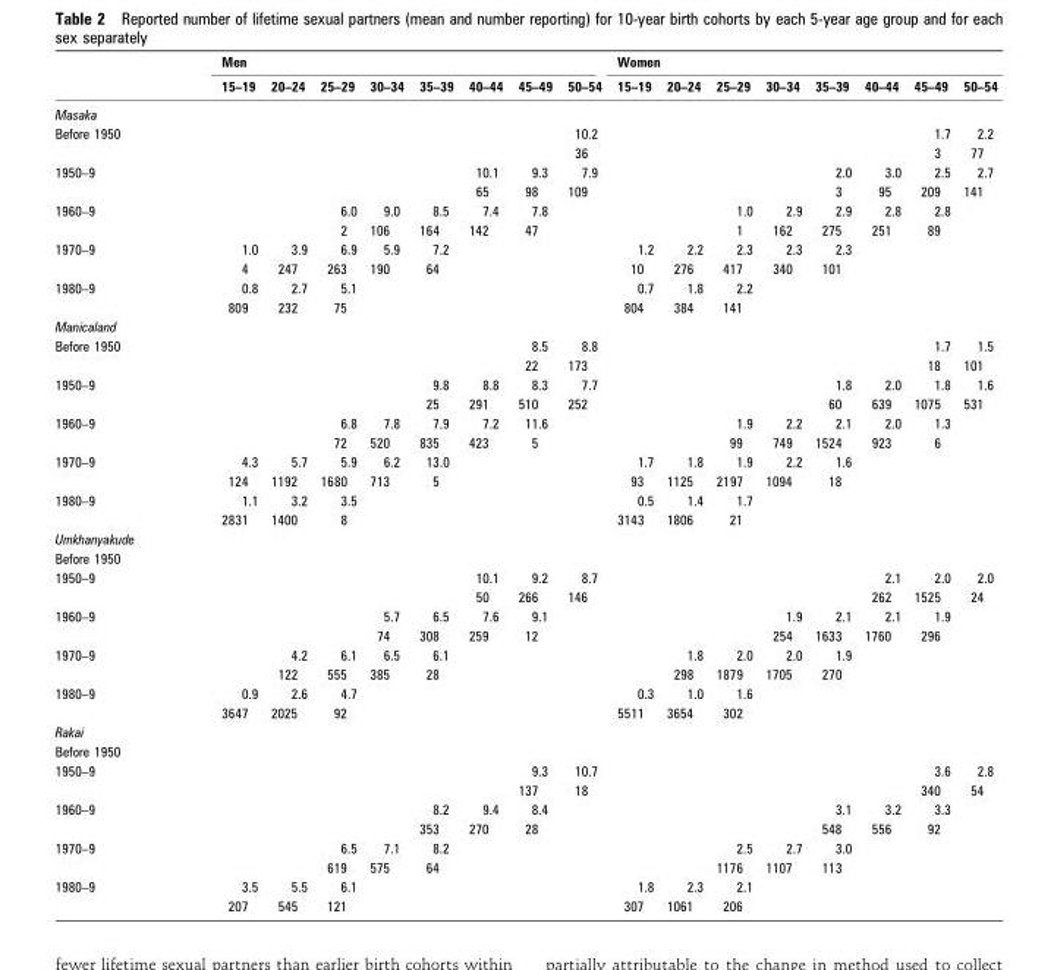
<table><thead><tr><td rowspan="2"></td><td colspan="8">Men</td><td colspan="8">Women</td></tr><tr><td>15–19</td><td>20–24</td><td>25–29</td><td>30–34</td><td>35–39</td><td>40–44</td><td>45–49</td><td>50–54</td><td>15–19</td><td>20–24</td><td>25–29</td><td>30–34</td><td>35–39</td><td>40–44</td><td>45–49</td><td>50–54</td></tr></thead><tbody><tr><td colspan="17">Masaka</td></tr><tr><td rowspan="2">Before 1950</td><td></td><td></td><td></td><td></td><td></td><td></td><td></td><td>10.2</td><td></td><td></td><td></td><td></td><td></td><td></td><td>1.7</td><td>2.2</td></tr><tr><td></td><td></td><td></td><td></td><td></td><td></td><td></td><td>36</td><td></td><td></td><td></td><td></td><td></td><td></td><td>3</td><td>77</td></tr><tr><td rowspan="2">1950–9</td><td></td><td></td><td></td><td></td><td></td><td>10.1</td><td>9.3</td><td>7.9</td><td></td><td></td><td></td><td></td><td>2.0</td><td>3.0</td><td>2.5</td><td>2.7</td></tr><tr><td></td><td></td><td></td><td></td><td></td><td>65</td><td>98</td><td>109</td><td></td><td></td><td></td><td></td><td>3</td><td>95</td><td>209</td><td>141</td></tr><tr><td rowspan="2">1960–9</td><td></td><td></td><td>6.0</td><td>9.0</td><td>8.5</td><td>7.4</td><td>7.8</td><td></td><td></td><td></td><td>1.0</td><td>2.9</td><td>2.9</td><td>2.8</td><td>2.8</td><td></td></tr><tr><td></td><td></td><td>2</td><td>106</td><td>164</td><td>142</td><td>47</td><td></td><td></td><td></td><td>1</td><td>162</td><td>275</td><td>251</td><td>89</td><td></td></tr><tr><td rowspan="2">1970–9</td><td>1.0</td><td>3.9</td><td>6.9</td><td>5.9</td><td>7.2</td><td></td><td></td><td></td><td>1.2</td><td>2.2</td><td>2.3</td><td>2.3</td><td>2.3</td><td></td><td></td><td></td></tr><tr><td>4</td><td>247</td><td>263</td><td>190</td><td>64</td><td></td><td></td><td></td><td>10</td><td>276</td><td>417</td><td>340</td><td>101</td><td></td><td></td><td></td></tr><tr><td rowspan="2">1980–9</td><td>0.8</td><td>2.7</td><td>5.1</td><td></td><td></td><td></td><td></td><td></td><td>0.7</td><td>1.8</td><td>2.2</td><td></td><td></td><td></td><td></td><td></td></tr><tr><td>809</td><td>232</td><td>75</td><td></td><td></td><td></td><td></td><td></td><td>804</td><td>384</td><td>141</td><td></td><td></td><td></td><td></td><td></td></tr><tr><td colspan="17">Manicaland</td></tr><tr><td rowspan="2">Before 1950</td><td></td><td></td><td></td><td></td><td></td><td></td><td>8.5</td><td>8.8</td><td></td><td></td><td></td><td></td><td></td><td></td><td>1.7</td><td>1.5</td></tr><tr><td></td><td></td><td></td><td></td><td></td><td></td><td>22</td><td>173</td><td></td><td></td><td></td><td></td><td></td><td></td><td>18</td><td>101</td></tr><tr><td rowspan="2">1950–9</td><td></td><td></td><td></td><td></td><td>9.8</td><td>8.8</td><td>8.3</td><td>7.7</td><td></td><td></td><td></td><td></td><td>1.8</td><td>2.0</td><td>1.8</td><td>1.6</td></tr><tr><td></td><td></td><td></td><td></td><td>25</td><td>291</td><td>510</td><td>252</td><td></td><td></td><td></td><td></td><td>60</td><td>639</td><td>1075</td><td>531</td></tr><tr><td rowspan="2">1960–9</td><td></td><td></td><td>6.8</td><td>7.8</td><td>7.9</td><td>7.2</td><td>11.6</td><td></td><td></td><td></td><td>1.9</td><td>2.2</td><td>2.1</td><td>2.0</td><td>1.3</td><td></td></tr><tr><td></td><td></td><td>72</td><td>520</td><td>835</td><td>423</td><td>5</td><td></td><td></td><td></td><td>99</td><td>749</td><td>1524</td><td>923</td><td>6</td><td></td></tr><tr><td rowspan="2">1970–9</td><td>4.3</td><td>5.7</td><td>5.9</td><td>6.2</td><td>13.0</td><td></td><td></td><td></td><td>1.7</td><td>1.8</td><td>1.9</td><td>2.2</td><td>1.6</td><td></td><td></td><td></td></tr><tr><td>124</td><td>1192</td><td>1680</td><td>713</td><td>5</td><td></td><td></td><td></td><td>93</td><td>1125</td><td>2197</td><td>1094</td><td>18</td><td></td><td></td><td></td></tr><tr><td rowspan="2">1980–9</td><td>1.1</td><td>3.2</td><td>3.5</td><td></td><td></td><td></td><td></td><td></td><td>0.5</td><td>1.4</td><td>1.7</td><td></td><td></td><td></td><td></td><td></td></tr><tr><td>2831</td><td>1400</td><td>8</td><td></td><td></td><td></td><td></td><td></td><td>3143</td><td>1806</td><td>21</td><td></td><td></td><td></td><td></td><td></td></tr><tr><td colspan="17">Umkhanyakude</td></tr><tr><td colspan="17">Before 1950</td></tr><tr><td rowspan="2">1950–9</td><td></td><td></td><td></td><td></td><td></td><td>10.1</td><td>9.2</td><td>8.7</td><td></td><td></td><td></td><td></td><td></td><td>2.1</td><td>2.0</td><td>2.0</td></tr><tr><td></td><td></td><td></td><td></td><td></td><td>50</td><td>266</td><td>146</td><td></td><td></td><td></td><td></td><td></td><td>262</td><td>1525</td><td>24</td></tr><tr><td rowspan="2">1960–9</td><td></td><td></td><td></td><td>5.7</td><td>6.5</td><td>7.6</td><td>9.1</td><td></td><td></td><td></td><td></td><td>1.9</td><td>2.1</td><td>2.1</td><td>1.9</td><td></td></tr><tr><td></td><td></td><td></td><td>74</td><td>308</td><td>259</td><td>12</td><td></td><td></td><td></td><td></td><td>254</td><td>1633</td><td>1760</td><td>296</td><td></td></tr><tr><td rowspan="2">1970–9</td><td></td><td>4.2</td><td>6.1</td><td>6.5</td><td>6.1</td><td></td><td></td><td></td><td></td><td>1.8</td><td>2.0</td><td>2.0</td><td>1.9</td><td></td><td></td><td></td></tr><tr><td></td><td>122</td><td>555</td><td>385</td><td>28</td><td></td><td></td><td></td><td></td><td>298</td><td>1879</td><td>1705</td><td>270</td><td></td><td></td><td></td></tr><tr><td rowspan="2">1980–9</td><td>0.9</td><td>2.6</td><td>4.7</td><td></td><td></td><td></td><td></td><td></td><td>0.3</td><td>1.0</td><td>1.6</td><td></td><td></td><td></td><td></td><td></td></tr><tr><td>3647</td><td>2025</td><td>92</td><td></td><td></td><td></td><td></td><td></td><td>5511</td><td>3654</td><td>302</td><td></td><td></td><td></td><td></td><td></td></tr><tr><td colspan="17">Rakai</td></tr><tr><td colspan="17">Before 1950</td></tr><tr><td rowspan="2">1950–9</td><td></td><td></td><td></td><td></td><td></td><td></td><td>9.3</td><td>10.7</td><td></td><td></td><td></td><td></td><td></td><td></td><td>3.6</td><td>2.8</td></tr><tr><td></td><td></td><td></td><td></td><td></td><td></td><td>137</td><td>18</td><td></td><td></td><td></td><td></td><td></td><td></td><td>340</td><td>54</td></tr><tr><td rowspan="2">1960–9</td><td></td><td></td><td></td><td></td><td>8.2</td><td>9.4</td><td>8.4</td><td></td><td></td><td></td><td></td><td></td><td>3.1</td><td>3.2</td><td>3.3</td><td></td></tr><tr><td></td><td></td><td></td><td></td><td>353</td><td>270</td><td>28</td><td></td><td></td><td></td><td></td><td></td><td>548</td><td>556</td><td>92</td><td></td></tr><tr><td rowspan="2">1970–9</td><td></td><td></td><td>6.5</td><td>7.1</td><td>8.2</td><td></td><td></td><td></td><td></td><td></td><td>2.5</td><td>2.7</td><td>3.0</td><td></td><td></td><td></td></tr><tr><td></td><td></td><td>619</td><td>575</td><td>64</td><td></td><td></td><td></td><td></td><td></td><td>1176</td><td>1107</td><td>113</td><td></td><td></td><td></td></tr><tr><td rowspan="2">1980–9</td><td>3.5</td><td>5.5</td><td>6.1</td><td></td><td></td><td></td><td></td><td></td><td>1.8</td><td>2.3</td><td>2.1</td><td></td><td></td><td></td><td></td><td></td></tr><tr><td>207</td><td>545</td><td>121</td><td></td><td></td><td></td><td></td><td></td><td>307</td><td>1061</td><td>206</td><td></td><td></td><td></td><td></td><td></td></tr></tbody></table>